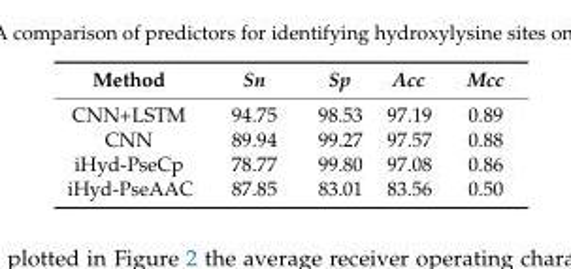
<table><thead><tr><td>Method</td><td>Sn</td><td>Sp</td><td>Acc</td><td>Mcc</td></tr></thead><tbody><tr><td>CNN+LSTM</td><td>94.75</td><td>98.53</td><td>97.19</td><td>0.89</td></tr><tr><td>CNN</td><td>89.94</td><td>99.27</td><td>97.57</td><td>0.88</td></tr><tr><td>iHyd-PseCp</td><td>78.77</td><td>99.80</td><td>97.08</td><td>0.86</td></tr><tr><td>iHyd-PseAAC</td><td>87.85</td><td>83.01</td><td>83.56</td><td>0.50</td></tr></tbody></table>